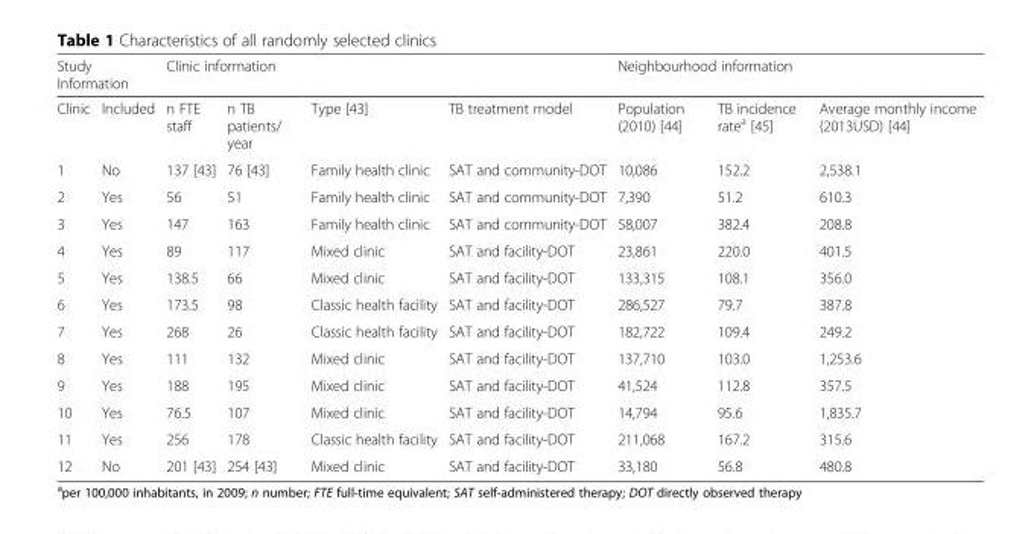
<table><thead><tr><td colspan="2">Study Information</td><td colspan="4">Clinic information</td><td colspan="3">Neighbourhood information</td></tr><tr><td>Clinic</td><td>Included</td><td>n FTE staff</td><td>n TB patients/ year</td><td>Type [43]</td><td>TB treatment model</td><td>Population (2010) [44]</td><td>TB incidence rate<sup>a</sup> [45]</td><td>Average monthly income (2013USD) [44]</td></tr></thead><tbody><tr><td>1</td><td>No</td><td>137 [43]</td><td>76 [43]</td><td>Family health clinic</td><td>SAT and community-DOT</td><td>10,086</td><td>152.2</td><td>2,538.1</td></tr><tr><td>2</td><td>Yes</td><td>56</td><td>51</td><td>Family health clinic</td><td>SAT and community-DOT</td><td>7,390</td><td>51.2</td><td>610.3</td></tr><tr><td>3</td><td>Yes</td><td>147</td><td>163</td><td>Family health clinic</td><td>SAT and community-DOT</td><td>58,007</td><td>382.4</td><td>208.8</td></tr><tr><td>4</td><td>Yes</td><td>89</td><td>117</td><td>Mixed clinic</td><td>SAT and facility-DOT</td><td>23,861</td><td>220.0</td><td>401.5</td></tr><tr><td>5</td><td>Yes</td><td>138.5</td><td>66</td><td>Mixed clinic</td><td>SAT and facility-DOT</td><td>133,315</td><td>108.1</td><td>356.0</td></tr><tr><td>6</td><td>Yes</td><td>173.5</td><td>98</td><td>Classic health facility</td><td>SAT and facility-DOT</td><td>286,527</td><td>79.7</td><td>387.8</td></tr><tr><td>7</td><td>Yes</td><td>268</td><td>26</td><td>Classic health facility</td><td>SAT and facility-DOT</td><td>182,722</td><td>109.4</td><td>249.2</td></tr><tr><td>8</td><td>Yes</td><td>111</td><td>132</td><td>Mixed clinic</td><td>SAT and facility-DOT</td><td>137,710</td><td>103.0</td><td>1,253.6</td></tr><tr><td>9</td><td>Yes</td><td>188</td><td>195</td><td>Mixed clinic</td><td>SAT and facility-DOT</td><td>41,524</td><td>112.8</td><td>357.5</td></tr><tr><td>10</td><td>Yes</td><td>76.5</td><td>107</td><td>Mixed clinic</td><td>SAT and facility-DOT</td><td>14,794</td><td>95.6</td><td>1,835.7</td></tr><tr><td>11</td><td>Yes</td><td>256</td><td>178</td><td>Classic health facility</td><td>SAT and facility-DOT</td><td>211,068</td><td>167.2</td><td>315.6</td></tr><tr><td>12</td><td>No</td><td>201 [43]</td><td>254 [43]</td><td>Mixed clinic</td><td>SAT and facility-DOT</td><td>33,180</td><td>56.8</td><td>480.8</td></tr></tbody></table>